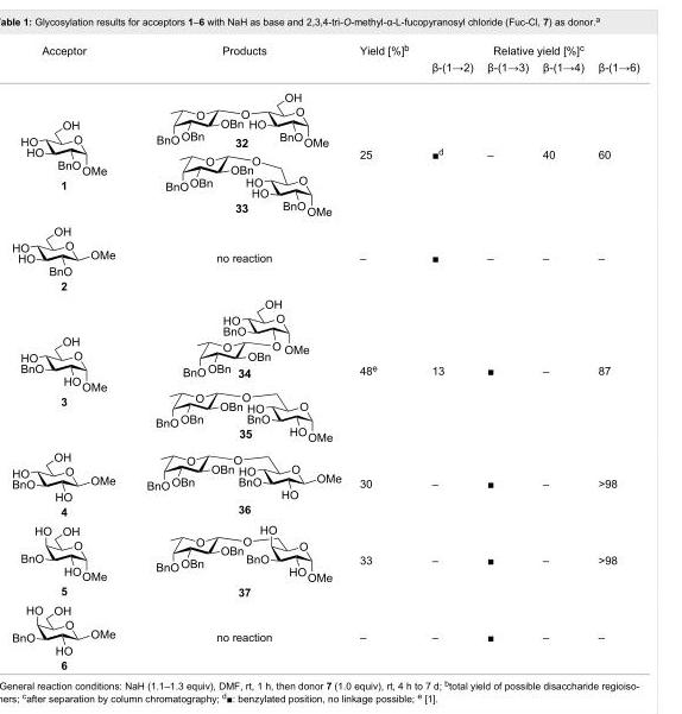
<table><tbody><tr><td rowspan="2">Acceptor</td><td rowspan="2">Products</td><td rowspan="2">Yield [%]<sup>b</sup></td><td colspan="4">Relative yield [%]<sup>c</sup></td></tr><tr><td>β-(1→2)</td><td>β-(1→3)</td><td>β-(1→4)</td><td>β-(1→6)</td></tr><tr><td>1</td><td></td><td>25</td><td>■<sup>d</sup></td><td>–</td><td>40</td><td>60</td></tr><tr><td>2</td><td>no reaction</td><td>–</td><td>■</td><td>–</td><td>–</td><td>–</td></tr><tr><td>3</td><td></td><td>48<sup>e</sup></td><td>13</td><td>■</td><td>–</td><td>87</td></tr><tr><td>4</td><td>36</td><td>30</td><td>–</td><td>■</td><td>–</td><td>&gt;98</td></tr><tr><td>5</td><td>37</td><td>33</td><td>–</td><td>■</td><td>–</td><td>&gt;98</td></tr><tr><td>6</td><td>no reaction</td><td>–</td><td>–</td><td>■</td><td>–</td><td>–</td></tr></tbody></table>